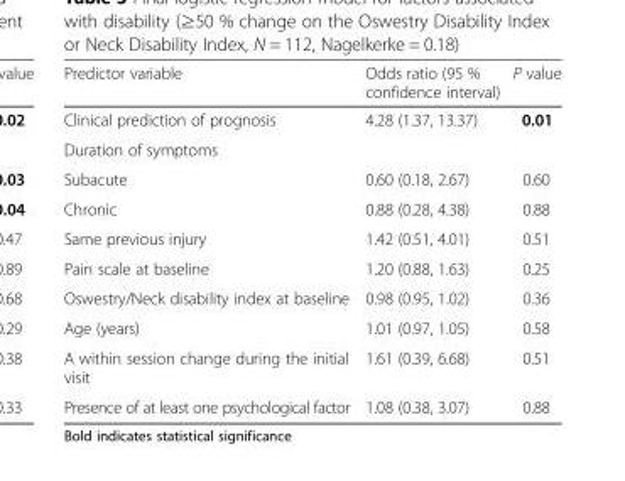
<table><thead><tr><td>Predictor variable</td><td>Odds ratio (95 % confidence interval)</td><td>P value</td></tr></thead><tbody><tr><td>Clinical prediction of prognosis</td><td>4.28 (1.37, 13.37)</td><td>0.01</td></tr><tr><td colspan="3">Duration of symptoms</td></tr><tr><td>Subacute</td><td>0.60 (0.18, 2.67)</td><td>0.60</td></tr><tr><td>Chronic</td><td>0.88 (0.28, 4.38)</td><td>0.88</td></tr><tr><td>Same previous injury</td><td>1.42 (0.51, 4.01)</td><td>0.51</td></tr><tr><td>Pain scale at baseline</td><td>1.20 (0.88, 1.63)</td><td>0.25</td></tr><tr><td>Oswestry/Neck disability index at baseline</td><td>0.98 (0.95, 1.02)</td><td>0.36</td></tr><tr><td>Age (years)</td><td>1.01 (0.97, 1.05)</td><td>0.58</td></tr><tr><td>A within session change during the initial visit</td><td>1.61 (0.39, 6.68)</td><td>0.51</td></tr><tr><td>Presence of at least one psychological factor</td><td>1.08 (0.38, 3.07)</td><td>0.88</td></tr></tbody></table>